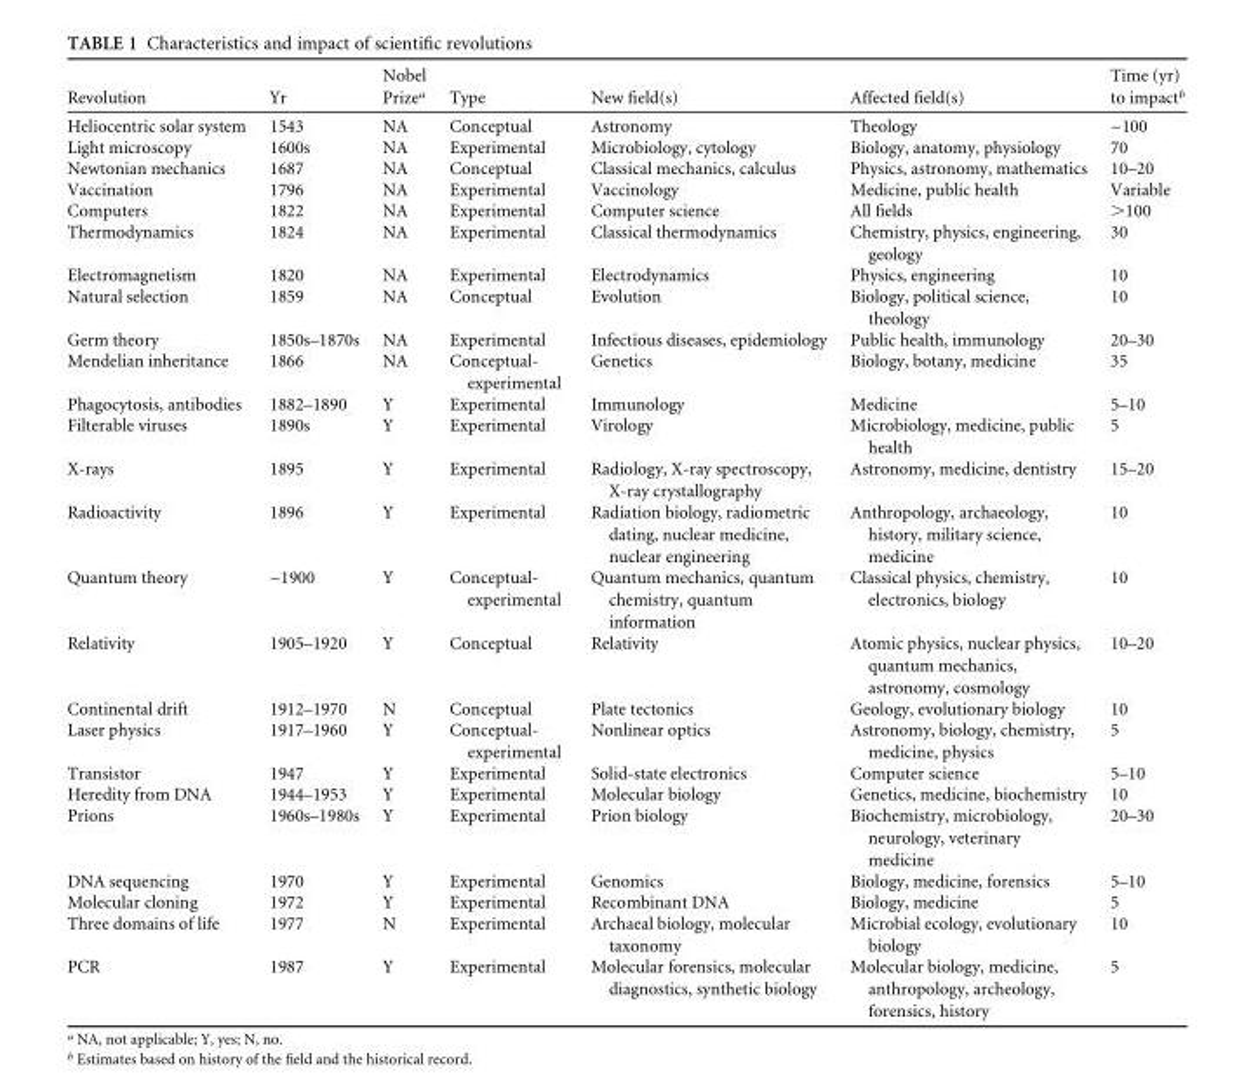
<table><thead><tr><td>Revolution</td><td>Yr</td><td>Nobel Prize<sup>a</sup></td><td>Type</td><td>New field(s)</td><td>Affected field(s)</td><td>Time (yr) to impact<sup>b</sup></td></tr></thead><tbody><tr><td>Heliocentric solar system</td><td>1543</td><td>NA</td><td>Conceptual</td><td>Astronomy</td><td>Theology</td><td>~100</td></tr><tr><td>Light microscopy</td><td>1600s</td><td>NA</td><td>Experimental</td><td>Microbiology, cytology</td><td>Biology, anatomy, physiology</td><td>70</td></tr><tr><td>Newtonian mechanics</td><td>1687</td><td>NA</td><td>Conceptual</td><td>Classical mechanics, calculus</td><td>Physics, astronomy, mathematics</td><td>10–20</td></tr><tr><td>Vaccination</td><td>1796</td><td>NA</td><td>Experimental</td><td>Vaccinology</td><td>Medicine, public health</td><td>Variable</td></tr><tr><td>Computers</td><td>1822</td><td>NA</td><td>Experimental</td><td>Computer science</td><td>All fields</td><td>&gt;100</td></tr><tr><td>Thermodynamics</td><td>1824</td><td>NA</td><td>Experimental</td><td>Classical thermodynamics</td><td>Chemistry, physics, engineering, geology</td><td>30</td></tr><tr><td>Electromagnetism</td><td>1820</td><td>NA</td><td>Experimental</td><td>Electrodynamics</td><td>Physics, engineering</td><td>10</td></tr><tr><td>Natural selection</td><td>1859</td><td>NA</td><td>Conceptual</td><td>Evolution</td><td>Biology, political science, theology</td><td>10</td></tr><tr><td>Germ theory</td><td>1850s–1870s</td><td>NA</td><td>Experimental</td><td>Infectious diseases, epidemiology</td><td>Public health, immunology</td><td>20–30</td></tr><tr><td>Mendelian inheritance</td><td>1866</td><td>NA</td><td>Conceptual- experimental</td><td>Genetics</td><td>Biology, botany, medicine</td><td>35</td></tr><tr><td>Phagocytosis, antibodies</td><td>1882–1890</td><td>Y</td><td>Experimental</td><td>Immunology</td><td>Medicine</td><td>5–10</td></tr><tr><td>Filterable viruses</td><td>1890s</td><td>Y</td><td>Experimental</td><td>Virology</td><td>Microbiology, medicine, public health</td><td>5</td></tr><tr><td>X-rays</td><td>1895</td><td>Y</td><td>Experimental</td><td>Radiology, X-ray spectroscopy, X-ray crystallography</td><td>Astronomy, medicine, dentistry</td><td>15–20</td></tr><tr><td>Radioactivity</td><td>1896</td><td>Y</td><td>Experimental</td><td>Radiation biology, radiometric dating, nuclear medicine, nuclear engineering</td><td>Anthropology, archaeology, history, military science, medicine</td><td>10</td></tr><tr><td>Quantum theory</td><td>~1900</td><td>Y</td><td>Conceptual- experimental</td><td>Quantum mechanics, quantum chemistry, quantum information</td><td>Classical physics, chemistry, electronics, biology</td><td>10</td></tr><tr><td>Relativity</td><td>1905–1920</td><td>Y</td><td>Conceptual</td><td>Relativity</td><td>Atomic physics, nuclear physics, quantum mechanics, astronomy, cosmology</td><td>10–20</td></tr><tr><td>Continental drift</td><td>1912–1970</td><td>N</td><td>Conceptual</td><td>Plate tectonics</td><td>Geology, evolutionary biology</td><td>10</td></tr><tr><td>Laser physics</td><td>1917–1960</td><td>Y</td><td>Conceptual- experimental</td><td>Nonlinear optics</td><td>Astronomy, biology, chemistry, medicine, physics</td><td>5</td></tr><tr><td>Transistor</td><td>1947</td><td>Y</td><td>Experimental</td><td>Solid-state electronics</td><td>Computer science</td><td>5–10</td></tr><tr><td>Heredity from DNA</td><td>1944–1953</td><td>Y</td><td>Experimental</td><td>Molecular biology</td><td>Genetics, medicine, biochemistry</td><td>10</td></tr><tr><td>Prions</td><td>1960s–1980s</td><td>Y</td><td>Experimental</td><td>Prion biology</td><td>Biochemistry, microbiology, neurology, veterinary medicine</td><td>20–30</td></tr><tr><td>DNA sequencing</td><td>1970</td><td>Y</td><td>Experimental</td><td>Genomics</td><td>Biology, medicine, forensics</td><td>5–10</td></tr><tr><td>Molecular cloning</td><td>1972</td><td>Y</td><td>Experimental</td><td>Recombinant DNA</td><td>Biology, medicine</td><td>5</td></tr><tr><td>Three domains of life</td><td>1977</td><td>N</td><td>Experimental</td><td>Archaeal biology, molecular taxonomy</td><td>Microbial ecology, evolutionary biology</td><td>10</td></tr><tr><td>PCR</td><td>1987</td><td>Y</td><td>Experimental</td><td>Molecular forensics, molecular diagnostics, synthetic biology</td><td>Molecular biology, medicine, anthropology, archeology, forensics, history</td><td>5</td></tr></tbody></table>